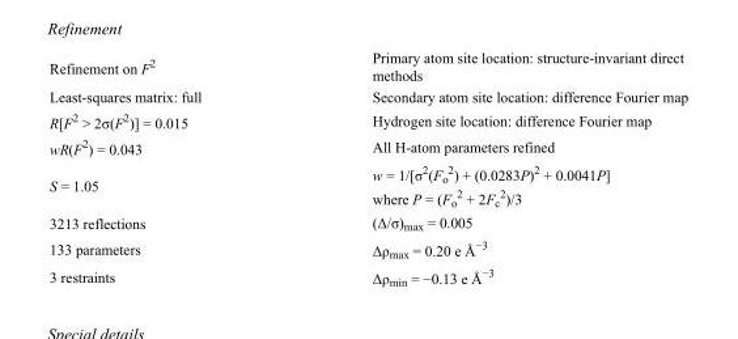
<table><tbody><tr><td>Refinement on F<sup>2</sup></td><td>Primary atom site location: structure-invariant direct methods</td></tr><tr><td>Least-squares matrix: full</td><td>Secondary atom site location: difference Fourier map</td></tr><tr><td>R[F<sup>2</sup> &gt; 2σ(F<sup>2</sup>)] = 0.015</td><td>Hydrogen site location: difference Fourier map</td></tr><tr><td>wR(F<sup>2</sup>) = 0.043</td><td>All H-atom parameters refined</td></tr><tr><td>S = 1.05</td><td>w = 1/[σ<sup>2</sup>(F<sub>o</sub> <sup>2</sup>) + (0.0283P)<sup>2</sup> + 0.0041P] where P = (F<sub>o</sub> <sup>2</sup> + 2F<sub>c</sub> <sup>2</sup>)/3</td></tr><tr><td>3213 reflections</td><td>(Δ/σ)<sub>max</sub> = 0.005</td></tr><tr><td>133 parameters</td><td>Δρ<sub>max</sub> = 0.20 e Å<sup>−3</sup></td></tr><tr><td>3 restraints</td><td>Δρ<sub>min</sub> = −0.13 e Å<sup>−3</sup></td></tr></tbody></table>